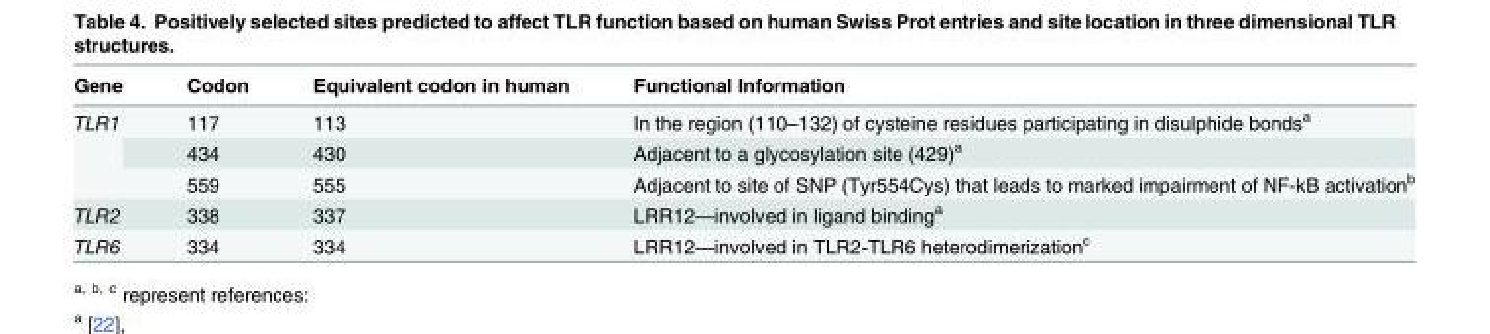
<table><thead><tr><td>Gene</td><td>Codon</td><td>Equivalent codon in human</td><td>Functional Information</td></tr></thead><tbody><tr><td rowspan="3">TLR1</td><td>117</td><td>113</td><td>In the region (110–132) of cysteine residues participating in disulphide bonds<sup>a</sup></td></tr><tr><td>434</td><td>430</td><td>Adjacent to a glycosylation site (429)<sup>a</sup></td></tr><tr><td>559</td><td>555</td><td>Adjacent to site of SNP (Tyr554Cys) that leads to marked impairment of NF-kB activation<sup>b</sup></td></tr><tr><td>TLR2</td><td>338</td><td>337</td><td>LRR12—involved in ligand binding<sup>a</sup></td></tr><tr><td>TLR6</td><td>334</td><td>334</td><td>LRR12—involved in TLR2-TLR6 heterodimerization<sup>c</sup></td></tr></tbody></table>